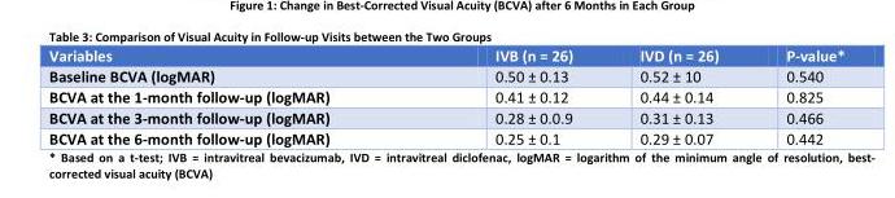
<table><thead><tr><td>Variables</td><td>IVB (n = 26)</td><td>IVD (n = 26)</td><td>P-value*</td></tr></thead><tbody><tr><td>Baseline BCVA (logMAR)</td><td>0.50 ± 0.13</td><td>0.52 ± 10</td><td>0.540</td></tr><tr><td>BCVA at the 1-month follow-up (logMAR)</td><td>0.41 ± 0.12</td><td>0.44 ± 0.14</td><td>0.825</td></tr><tr><td>BCVA at the 3-month follow-up (logMAR)</td><td>0.28 ± 0.0.9</td><td>0.31 ± 0.13</td><td>0.466</td></tr><tr><td>BCVA at the 6-month follow-up (logMAR)</td><td>0.25 ± 0.1</td><td>0.29 ± 0.07</td><td>0.442</td></tr></tbody></table>